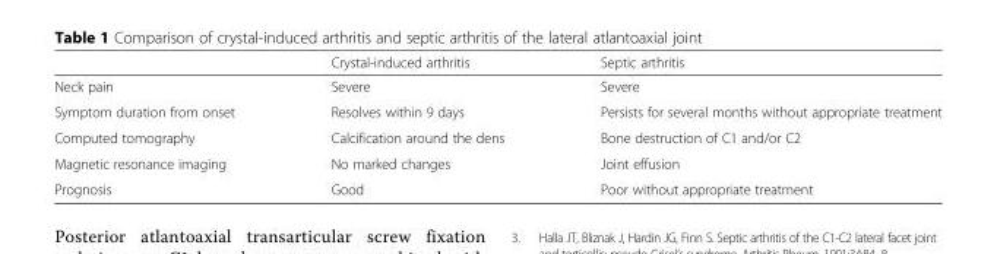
<table><thead><tr><td></td><td>Crystal-induced arthritis</td><td>Septic arthritis</td></tr></thead><tbody><tr><td>Neck pain</td><td>Severe</td><td>Severe</td></tr><tr><td>Symptom duration from onset</td><td>Resolves within 9 days</td><td>Persists for several months without appropriate treatment</td></tr><tr><td>Computed tomography</td><td>Calcification around the dens</td><td>Bone destruction of C1 and/or C2</td></tr><tr><td>Magnetic resonance imaging</td><td>No marked changes</td><td>Joint effusion</td></tr><tr><td>Prognosis</td><td>Good</td><td>Poor without appropriate treatment</td></tr></tbody></table>